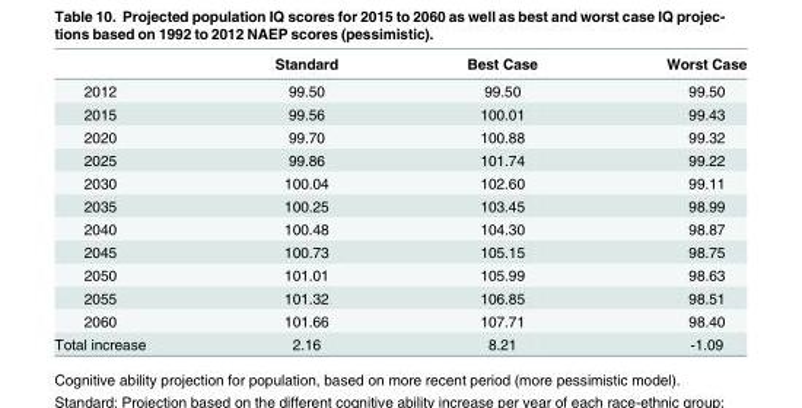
<table><thead><tr><td></td><td>Standard</td><td>Best Case</td><td>Worst Case</td></tr></thead><tbody><tr><td>2012</td><td>99.50</td><td>99.50</td><td>99.50</td></tr><tr><td>2015</td><td>99.56</td><td>100.01</td><td>99.43</td></tr><tr><td>2020</td><td>99.70</td><td>100.88</td><td>99.32</td></tr><tr><td>2025</td><td>99.86</td><td>101.74</td><td>99.22</td></tr><tr><td>2030</td><td>100.04</td><td>102.60</td><td>99.11</td></tr><tr><td>2035</td><td>100.25</td><td>103.45</td><td>98.99</td></tr><tr><td>2040</td><td>100.48</td><td>104.30</td><td>98.87</td></tr><tr><td>2045</td><td>100.73</td><td>105.15</td><td>98.75</td></tr><tr><td>2050</td><td>101.01</td><td>105.99</td><td>98.63</td></tr><tr><td>2055</td><td>101.32</td><td>106.85</td><td>98.51</td></tr><tr><td>2060</td><td>101.66</td><td>107.71</td><td>98.40</td></tr><tr><td>Total increase</td><td>2.16</td><td>8.21</td><td>-1.09</td></tr></tbody></table>